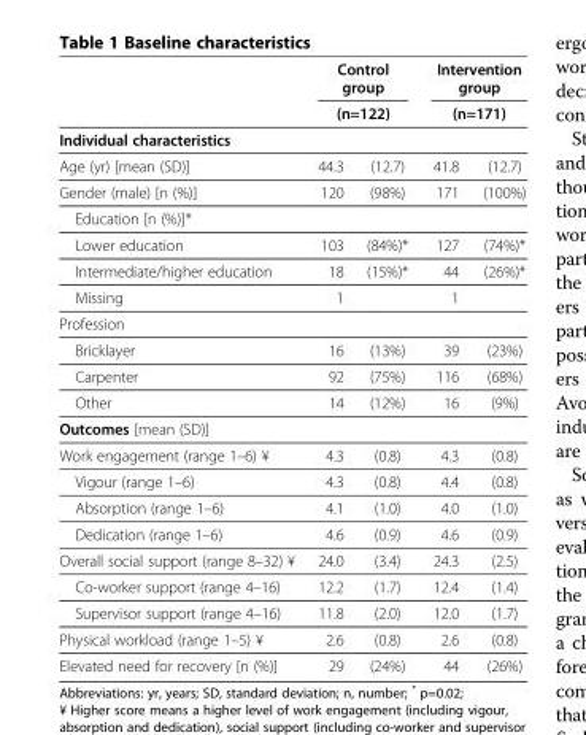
<table><thead><tr><td rowspan="3">Individual characteristics</td><td rowspan="2" colspan="2">Control group (n=122)</td><td rowspan="2" colspan="2">Intervention group (n=171)</td></tr><tr></tr><tr><td></td><td></td><td></td><td></td></tr></thead><tbody><tr><td>Age (yr) [mean (SD)]</td><td>44.3</td><td>(12.7)</td><td>41.8</td><td>(12.7)</td></tr><tr><td>Gender (male) [n (%)]</td><td>120</td><td>(98%)</td><td>171</td><td>(100%)</td></tr><tr><td colspan="5">Education [n (%)]*</td></tr><tr><td>Lower education</td><td>103</td><td>(84%)*</td><td>127</td><td>(74%)*</td></tr><tr><td>Intermediate/higher education</td><td>18</td><td>(15%)*</td><td>44</td><td>(26%)*</td></tr><tr><td>Missing</td><td>1</td><td></td><td>1</td><td></td></tr><tr><td colspan="5">Profession</td></tr><tr><td>Bricklayer</td><td>16</td><td>(13%)</td><td>39</td><td>(23%)</td></tr><tr><td>Carpenter</td><td>92</td><td>(75%)</td><td>116</td><td>(68%)</td></tr><tr><td>Other</td><td>14</td><td>(12%)</td><td>16</td><td>(9%)</td></tr><tr><td colspan="5">Outcomes [mean (SD)]</td></tr><tr><td>Work engagement (range 1–6) ¥</td><td>4.3</td><td>(0.8)</td><td>4.3</td><td>(0.8)</td></tr><tr><td>Vigour (range 1–6)</td><td>4.3</td><td>(0.8)</td><td>4.4</td><td>(0.8)</td></tr><tr><td>Absorption (range 1–6)</td><td>4.1</td><td>(1.0)</td><td>4.0</td><td>(1.0)</td></tr><tr><td>Dedication (range 1–6)</td><td>4.6</td><td>(0.9)</td><td>4.6</td><td>(0.9)</td></tr><tr><td>Overall social support (range 8–32) ¥</td><td>24.0</td><td>(3.4)</td><td>24.3</td><td>(2.5)</td></tr><tr><td>Co-worker support (range 4–16)</td><td>12.2</td><td>(1.7)</td><td>12.4</td><td>(1.4)</td></tr><tr><td>Supervisor support (range 4–16)</td><td>11.8</td><td>(2.0)</td><td>12.0</td><td>(1.7)</td></tr><tr><td>Physical workload (range 1–5) ¥</td><td>2.6</td><td>(0.8)</td><td>2.6</td><td>(0.8)</td></tr><tr><td>Elevated need for recovery [n (%)]</td><td>29</td><td>(24%)</td><td>44</td><td>(26%)</td></tr></tbody></table>